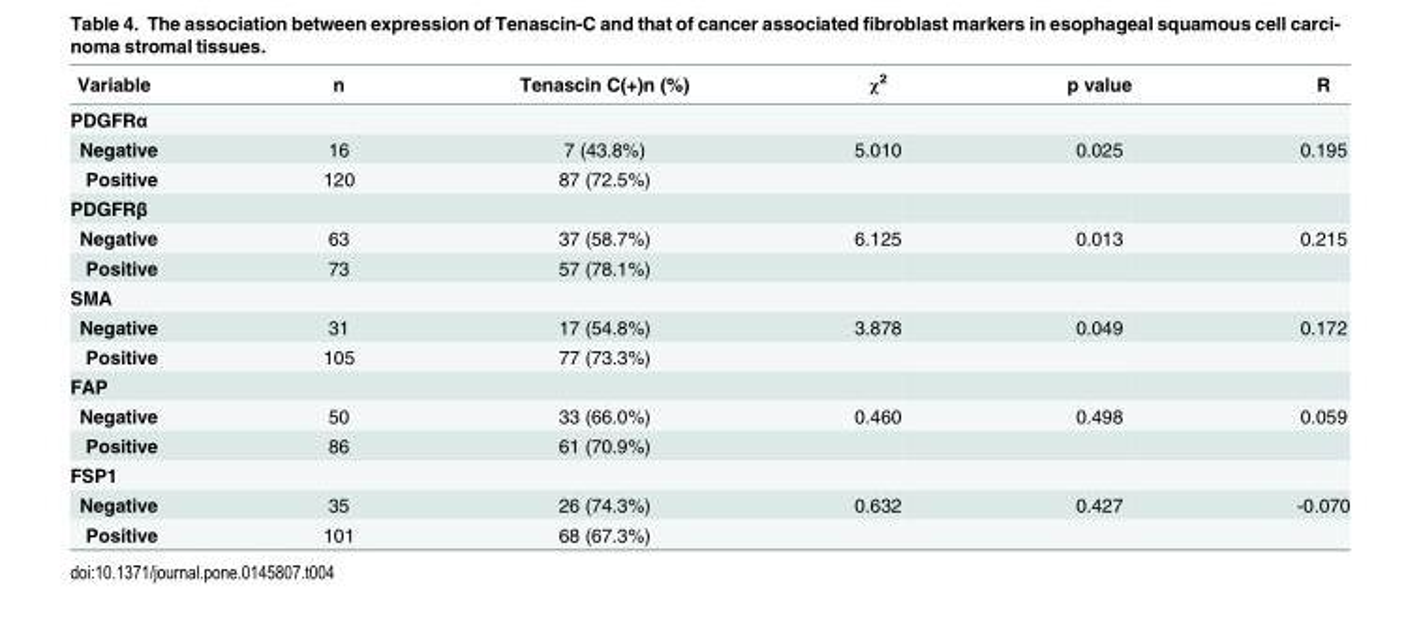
<table><thead><tr><td>Variable</td><td>n</td><td>Tenascin C(+)n (%)</td><td>χ<sup>2</sup></td><td>p value</td><td>R</td></tr></thead><tbody><tr><td colspan="6">PDGFRα</td></tr><tr><td>Negative</td><td>16</td><td>7 (43.8%)</td><td>5.010</td><td>0.025</td><td>0.195</td></tr><tr><td>Positive</td><td>120</td><td>87 (72.5%)</td><td></td><td></td><td></td></tr><tr><td colspan="6">PDGFRβ</td></tr><tr><td>Negative</td><td>63</td><td>37 (58.7%)</td><td>6.125</td><td>0.013</td><td>0.215</td></tr><tr><td>Positive</td><td>73</td><td>57 (78.1%)</td><td></td><td></td><td></td></tr><tr><td colspan="6">SMA</td></tr><tr><td>Negative</td><td>31</td><td>17 (54.8%)</td><td>3.878</td><td>0.049</td><td>0.172</td></tr><tr><td>Positive</td><td>105</td><td>77 (73.3%)</td><td></td><td></td><td></td></tr><tr><td colspan="6">FAP</td></tr><tr><td>Negative</td><td>50</td><td>33 (66.0%)</td><td>0.460</td><td>0.498</td><td>0.059</td></tr><tr><td>Positive</td><td>86</td><td>61 (70.9%)</td><td></td><td></td><td></td></tr><tr><td colspan="6">FSP1</td></tr><tr><td>Negative</td><td>35</td><td>26 (74.3%)</td><td>0.632</td><td>0.427</td><td>-0.070</td></tr><tr><td>Positive</td><td>101</td><td>68 (67.3%)</td><td></td><td></td><td></td></tr></tbody></table>